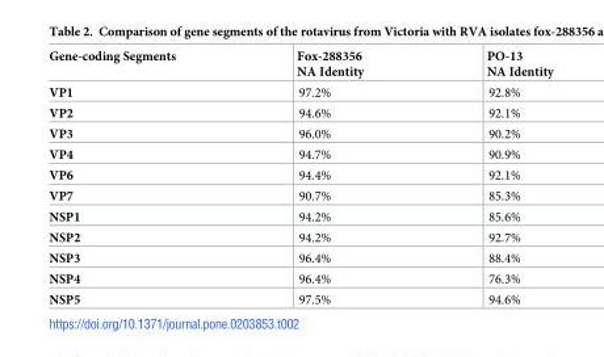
<table><thead><tr><td>Gene-coding Segments</td><td>Fox-288356 NA Identity</td><td>PO-13 NA Identity</td></tr></thead><tbody><tr><td>VP1</td><td>97.2%</td><td>92.8%</td></tr><tr><td>VP2</td><td>94.6%</td><td>92.1%</td></tr><tr><td>VP3</td><td>96.0%</td><td>90.2%</td></tr><tr><td>VP4</td><td>94.7%</td><td>90.9%</td></tr><tr><td>VP6</td><td>94.4%</td><td>92.1%</td></tr><tr><td>VP7</td><td>90.7%</td><td>85.3%</td></tr><tr><td>NSP1</td><td>94.2%</td><td>85.6%</td></tr><tr><td>NSP2</td><td>94.2%</td><td>92.7%</td></tr><tr><td>NSP3</td><td>96.4%</td><td>88.4%</td></tr><tr><td>NSP4</td><td>96.4%</td><td>76.3%</td></tr><tr><td>NSP5</td><td>97.5%</td><td>94.6%</td></tr></tbody></table>